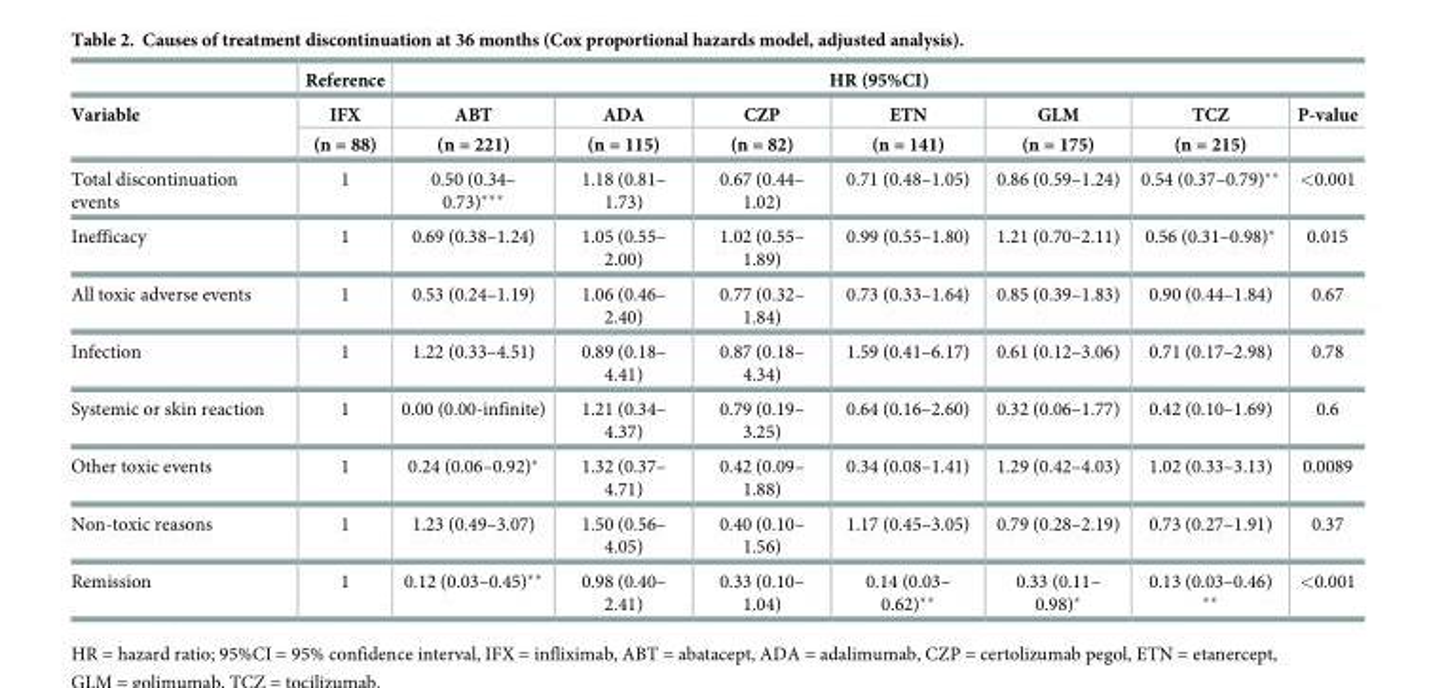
<table><thead><tr><td rowspan="3">Variable</td><td rowspan="3">Reference IFX (n = 88)</td><td colspan="7">HR (95%CI)</td></tr><tr><td rowspan="2">ABT (n = 221)</td><td rowspan="2">ADA (n = 115)</td><td rowspan="2">CZP (n = 82)</td><td rowspan="2">ETN (n = 141)</td><td rowspan="2">GLM (n = 175)</td><td rowspan="2">TCZ (n = 215)</td><td rowspan="2">P-value</td></tr><tr></tr></thead><tbody><tr><td>Total discontinuation events</td><td>1</td><td>0.50 (0.34– 0.73)***</td><td>1.18 (0.81– 1.73)</td><td>0.67 (0.44– 1.02)</td><td>0.71 (0.48–1.05)</td><td>0.86 (0.59–1.24)</td><td>0.54 (0.37–0.79)**</td><td>&lt;0.001</td></tr><tr><td>Inefficacy</td><td>1</td><td>0.69 (0.38–1.24)</td><td>1.05 (0.55– 2.00)</td><td>1.02 (0.55– 1.89)</td><td>0.99 (0.55–1.80)</td><td>1.21 (0.70–2.11)</td><td>0.56 (0.31–0.98)*</td><td>0.015</td></tr><tr><td>All toxic adverse events</td><td>1</td><td>0.53 (0.24–1.19)</td><td>1.06 (0.46– 2.40)</td><td>0.77 (0.32– 1.84)</td><td>0.73 (0.33–1.64)</td><td>0.85 (0.39–1.83)</td><td>0.90 (0.44–1.84)</td><td>0.67</td></tr><tr><td>Infection</td><td>1</td><td>1.22 (0.33–4.51)</td><td>0.89 (0.18– 4.41)</td><td>0.87 (0.18– 4.34)</td><td>1.59 (0.41–6.17)</td><td>0.61 (0.12–3.06)</td><td>0.71 (0.17–2.98)</td><td>0.78</td></tr><tr><td>Systemic or skin reaction</td><td>1</td><td>0.00 (0.00-infinite)</td><td>1.21 (0.34– 4.37)</td><td>0.79 (0.19– 3.25)</td><td>0.64 (0.16–2.60)</td><td>0.32 (0.06–1.77)</td><td>0.42 (0.10–1.69)</td><td>0.6</td></tr><tr><td>Other toxic events</td><td>1</td><td>0.24 (0.06–0.92)*</td><td>1.32 (0.37– 4.71)</td><td>0.42 (0.09– 1.88)</td><td>0.34 (0.08–1.41)</td><td>1.29 (0.42–4.03)</td><td>1.02 (0.33–3.13)</td><td>0.0089</td></tr><tr><td>Non-toxic reasons</td><td>1</td><td>1.23 (0.49–3.07)</td><td>1.50 (0.56– 4.05)</td><td>0.40 (0.10– 1.56)</td><td>1.17 (0.45–3.05)</td><td>0.79 (0.28–2.19)</td><td>0.73 (0.27–1.91)</td><td>0.37</td></tr><tr><td>Remission</td><td>1</td><td>0.12 (0.03–0.45)**</td><td>0.98 (0.40– 2.41)</td><td>0.33 (0.10– 1.04)</td><td>0.14 (0.03– 0.62)**</td><td>0.33 (0.11– 0.98)*</td><td>0.13 (0.03–0.46) **</td><td>&lt;0.001</td></tr></tbody></table>